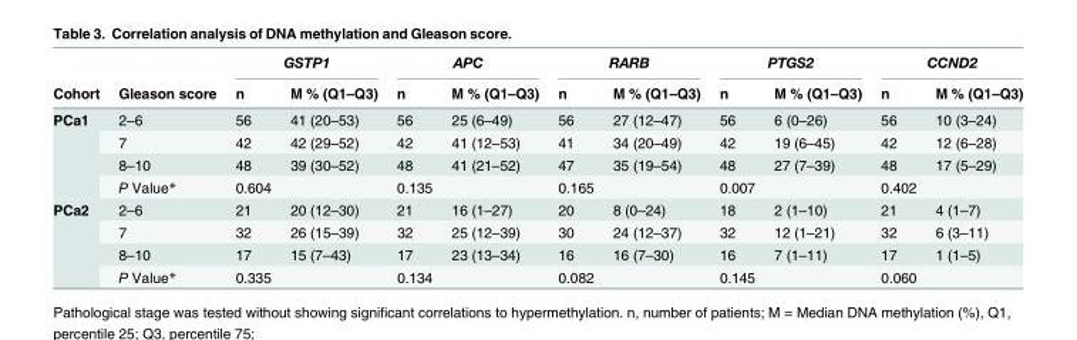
<table><thead><tr><td rowspan="2">Cohort</td><td rowspan="2">Gleason score</td><td colspan="2">GSTP1</td><td colspan="2">APC</td><td colspan="2">RARB</td><td colspan="2">PTGS2</td><td colspan="2">CCND2</td></tr><tr><td>n</td><td>M % (Q1–Q3)</td><td>n</td><td>M % (Q1–Q3)</td><td>n</td><td>M % (Q1–Q3)</td><td>n</td><td>M % (Q1–Q3)</td><td>n</td><td>M % (Q1–Q3)</td></tr></thead><tbody><tr><td rowspan="4">PCa1</td><td>2–6</td><td>56</td><td>41 (20–53)</td><td>56</td><td>25 (6–49)</td><td>56</td><td>27 (12–47)</td><td>56</td><td>6 (0–26)</td><td>56</td><td>10 (3–24)</td></tr><tr><td>7</td><td>42</td><td>42 (29–52)</td><td>42</td><td>41 (12–53)</td><td>41</td><td>34 (20–49)</td><td>42</td><td>19 (6–45)</td><td>42</td><td>12 (6–28)</td></tr><tr><td>8–10</td><td>48</td><td>39 (30–52)</td><td>48</td><td>41 (21–52)</td><td>47</td><td>35 (19–54)</td><td>48</td><td>27 (7–39)</td><td>48</td><td>17 (5–29)</td></tr><tr><td>P Value*</td><td>0.604</td><td></td><td>0.135</td><td></td><td>0.165</td><td></td><td>0.007</td><td></td><td>0.402</td><td></td></tr><tr><td rowspan="4">PCa2</td><td>2–6</td><td>21</td><td>20 (12–30)</td><td>21</td><td>16 (1–27)</td><td>20</td><td>8 (0–24)</td><td>18</td><td>2 (1–10)</td><td>21</td><td>4 (1–7)</td></tr><tr><td>7</td><td>32</td><td>26 (15–39)</td><td>32</td><td>25 (12–39)</td><td>30</td><td>24 (12–37)</td><td>32</td><td>12 (1–21)</td><td>32</td><td>6 (3–11)</td></tr><tr><td>8–10</td><td>17</td><td>15 (7–43)</td><td>17</td><td>23 (13–34)</td><td>16</td><td>16 (7–30)</td><td>16</td><td>7 (1–11)</td><td>17</td><td>1 (1–5)</td></tr><tr><td>P Value*</td><td>0.335</td><td></td><td>0.134</td><td></td><td>0.082</td><td></td><td>0.145</td><td></td><td>0.060</td><td></td></tr></tbody></table>